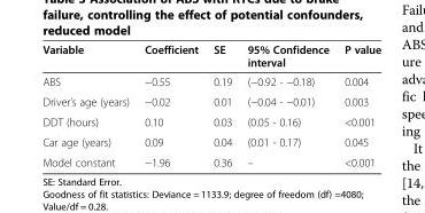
<table><thead><tr><td>Variable</td><td>Coefficient</td><td>SE</td><td>95% Confidence interval</td><td>P value</td></tr></thead><tbody><tr><td>ABS</td><td>−0.55</td><td>0.19</td><td>(−0.92 - −0.18)</td><td>0.004</td></tr><tr><td>Driver’s age (years)</td><td>−0.02</td><td>0.01</td><td>(−0.04 - −0.01)</td><td>0.003</td></tr><tr><td>DDT (hours)</td><td>0.10</td><td>0.03</td><td>(0.05 - 0.16)</td><td>&lt;0.001</td></tr><tr><td>Car age (years)</td><td>0.09</td><td>0.04</td><td>(0.01 - 0.17)</td><td>0.045</td></tr><tr><td>Model constant</td><td>−1.96</td><td>0.36</td><td>–</td><td>&lt;0.001</td></tr></tbody></table>